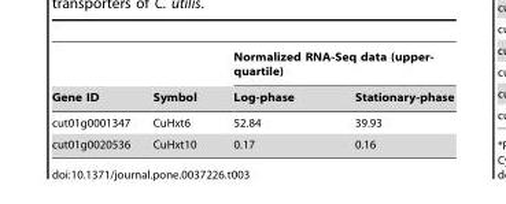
<table><thead><tr><td rowspan="2">Gene ID</td><td rowspan="2">Symbol</td><td colspan="2">Normalized RNA-Seq data (upper- quartile)</td></tr><tr><td>Log-phase</td><td>Stationary-phase</td></tr></thead><tbody><tr><td>cut01g0001347</td><td>CuHxt6</td><td>52.84</td><td>39.93</td></tr><tr><td>cut01g0020536</td><td>CuHxt10</td><td>0.17</td><td>0.16</td></tr></tbody></table>